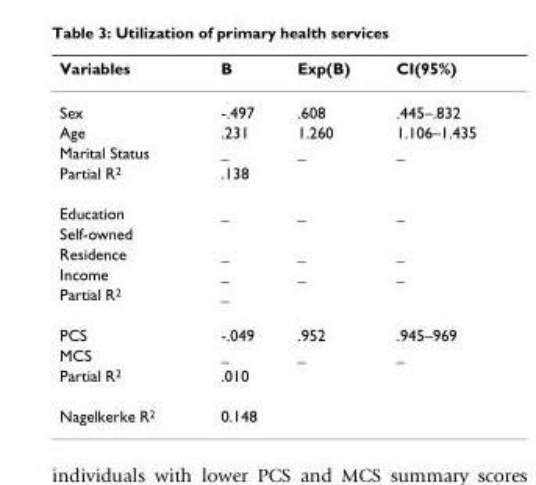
<table><thead><tr><td>Variables</td><td>B</td><td>Exp(B)</td><td>CI(95%)</td></tr></thead><tbody><tr><td>Sex</td><td>-.497</td><td>.608</td><td>.445–.832</td></tr><tr><td>Age</td><td>.231</td><td>1.260</td><td>1.106–1.435</td></tr><tr><td>Marital Status</td><td>_</td><td>_</td><td>_</td></tr><tr><td>Partial R2</td><td>.138</td><td></td><td></td></tr><tr><td>Education</td><td>_</td><td>_</td><td>_</td></tr><tr><td colspan="4">Self-owned</td></tr><tr><td>Residence</td><td>_</td><td>_</td><td>_</td></tr><tr><td>Income</td><td>_</td><td>_</td><td>_</td></tr><tr><td>Partial R2</td><td>_</td><td></td><td></td></tr><tr><td>PCS</td><td>-.049</td><td>.952</td><td>.945–969</td></tr><tr><td>MCS</td><td>_</td><td>_</td><td>_</td></tr><tr><td>Partial R2</td><td>.010</td><td></td><td></td></tr><tr><td>Nagelkerke R2</td><td>0.148</td><td></td><td></td></tr></tbody></table>